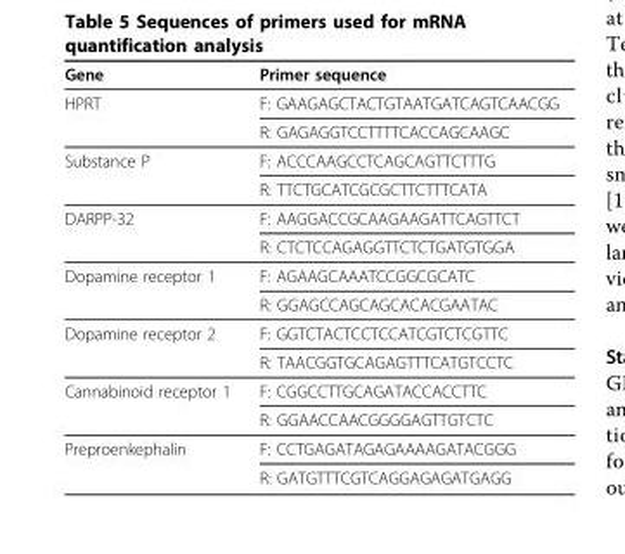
<table><thead><tr><td>Gene</td><td>Primer sequence</td></tr></thead><tbody><tr><td rowspan="2">HPRT</td><td>F: GAAGAGCTACTGTAATGATCAGTCAACGG</td></tr><tr><td>R: GAGAGGTCCTTTTCACCAGCAAGC</td></tr><tr><td rowspan="2">Substance P</td><td>F: ACCCAAGCCTCAGCAGTTCTTTG</td></tr><tr><td>R: TTCTGCATCGCGCTTCTTTCATA</td></tr><tr><td rowspan="2">DARPP-32</td><td>F: AAGGACCGCAAGAAGATTCAGTTCT</td></tr><tr><td>R: CTCTCCAGAGGTTCTCTGATGTGGA</td></tr><tr><td rowspan="2">Dopamine receptor 1</td><td>F: AGAAGCAAATCCGGCGCATC</td></tr><tr><td>R: GGAGCCAGCAGCACACGAATAC</td></tr><tr><td rowspan="2">Dopamine receptor 2</td><td>F: GGTCTACTCCTCCATCGTCTCGTTC</td></tr><tr><td>R: TAACGGTGCAGAGTTTCATGTCCTC</td></tr><tr><td rowspan="2">Cannabinoid receptor 1</td><td>F: CGGCCTTGCAGATACCACCTTC</td></tr><tr><td>R: GGAACCAACGGGGAGTTGTCTC</td></tr><tr><td rowspan="2">Preproenkephalin</td><td>F: CCTGAGATAGAGAAAAGATACGGG</td></tr><tr><td>R: GATGTTTCGTCAGGAGAGATGAGG</td></tr></tbody></table>